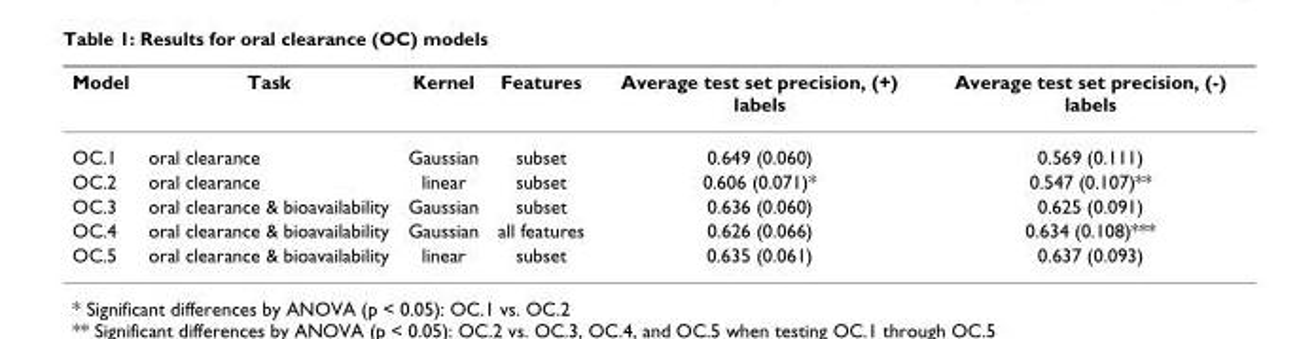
<table><thead><tr><td>Model</td><td>Task</td><td>Kernel</td><td>Features</td><td>Average test set precision, (+) labels</td><td>Average test set precision, (-) labels</td></tr></thead><tbody><tr><td>OC.1</td><td>oral clearance</td><td>Gaussian</td><td>subset</td><td>0.649 (0.060)</td><td>0.569 (0.111)</td></tr><tr><td>OC.2</td><td>oral clearance</td><td>linear</td><td>subset</td><td>0.606 (0.071)*</td><td>0.547 (0.107)**</td></tr><tr><td>OC.3</td><td>oral clearance &amp; bioavailability</td><td>Gaussian</td><td>subset</td><td>0.636 (0.060)</td><td>0.625 (0.091)</td></tr><tr><td>OC.4</td><td>oral clearance &amp; bioavailability</td><td>Gaussian</td><td>all features</td><td>0.626 (0.066)</td><td>0.634 (0.108)***</td></tr><tr><td>OC.5</td><td>oral clearance &amp; bioavailability</td><td>linear</td><td>subset</td><td>0.635 (0.061)</td><td>0.637 (0.093)</td></tr></tbody></table>